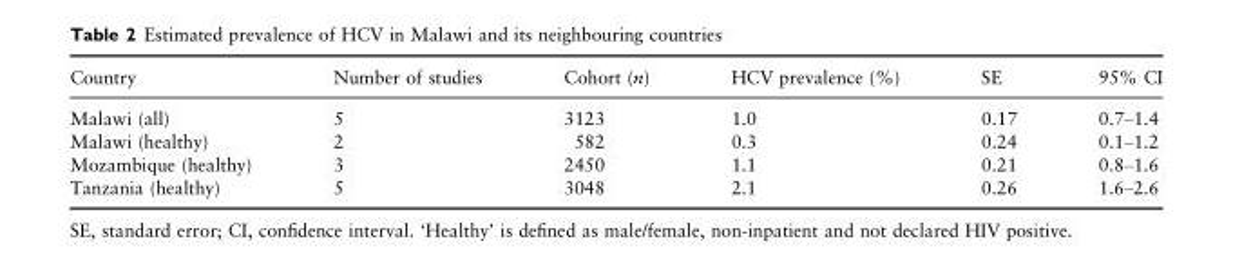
<table><thead><tr><td>Country</td><td>Number of studies</td><td>Cohort (n)</td><td>HCV prevalence (%)</td><td>SE</td><td>95% CI</td></tr></thead><tbody><tr><td>Malawi (all)</td><td>5</td><td>3123</td><td>1.0</td><td>0.17</td><td>0.7–1.4</td></tr><tr><td>Malawi (healthy)</td><td>2</td><td>582</td><td>0.3</td><td>0.24</td><td>0.1–1.2</td></tr><tr><td>Mozambique (healthy)</td><td>3</td><td>2450</td><td>1.1</td><td>0.21</td><td>0.8–1.6</td></tr><tr><td>Tanzania (healthy)</td><td>5</td><td>3048</td><td>2.1</td><td>0.26</td><td>1.6–2.6</td></tr></tbody></table>